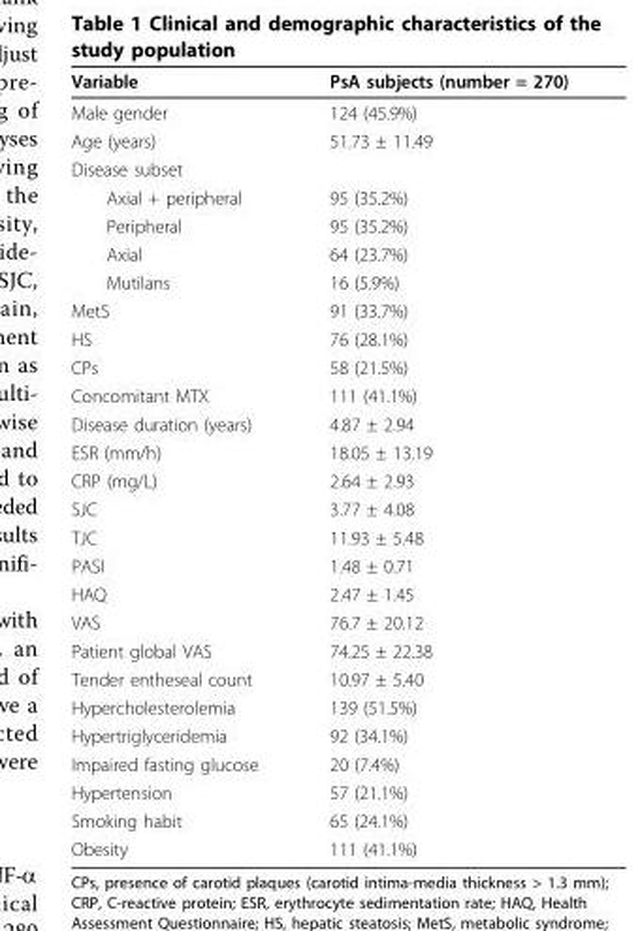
<table><thead><tr><td>Variable</td><td>PsA subjects (number = 270)</td></tr></thead><tbody><tr><td>Male gender</td><td>124 (45.9%)</td></tr><tr><td>Age (years)</td><td>51.73 ± 11.49</td></tr><tr><td colspan="2">Disease subset</td></tr><tr><td>Axial + peripheral</td><td>95 (35.2%)</td></tr><tr><td>Peripheral</td><td>95 (35.2%)</td></tr><tr><td>Axial</td><td>64 (23.7%)</td></tr><tr><td>Mutilans</td><td>16 (5.9%)</td></tr><tr><td>MetS</td><td>91 (33.7%)</td></tr><tr><td>HS</td><td>76 (28.1%)</td></tr><tr><td>CPs</td><td>58 (21.5%)</td></tr><tr><td>Concomitant MTX</td><td>111 (41.1%)</td></tr><tr><td>Disease duration (years)</td><td>4.87 ± 2.94</td></tr><tr><td>ESR (mm/h)</td><td>18.05 ± 13.19</td></tr><tr><td>CRP (mg/L)</td><td>2.64 ± 2.93</td></tr><tr><td>SJC</td><td>3.77 ± 4.08</td></tr><tr><td>TJC</td><td>11.93 ± 5.48</td></tr><tr><td>PASI</td><td>1.48 ± 0.71</td></tr><tr><td>HAQ</td><td>2.47 ± 1.45</td></tr><tr><td>VAS</td><td>76.7 ± 20.12</td></tr><tr><td>Patient global VAS</td><td>74.25 ± 22.38</td></tr><tr><td>Tender entheseal count</td><td>10.97 ± 5.40</td></tr><tr><td>Hypercholesterolemia</td><td>139 (51.5%)</td></tr><tr><td>Hypertriglyceridemia</td><td>92 (34.1%)</td></tr><tr><td>Impaired fasting glucose</td><td>20 (7.4%)</td></tr><tr><td>Hypertension</td><td>57 (21.1%)</td></tr><tr><td>Smoking habit</td><td>65 (24.1%)</td></tr><tr><td>Obesity</td><td>111 (41.1%)</td></tr></tbody></table>